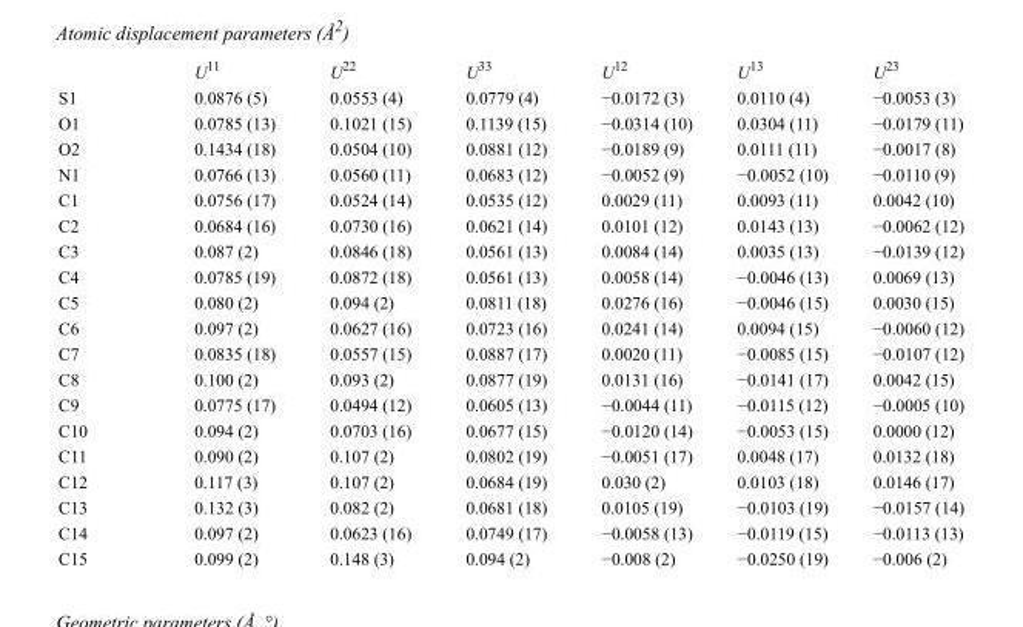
<table><thead><tr><td></td><td>U<sup>11</sup></td><td>U<sup>22</sup></td><td>U<sup>33</sup></td><td>U<sup>12</sup></td><td>U<sup>13</sup></td><td>U<sup>23</sup></td></tr></thead><tbody><tr><td>S1</td><td>0.0876 (5)</td><td>0.0553 (4)</td><td>0.0779 (4)</td><td>−0.0172 (3)</td><td>0.0110 (4)</td><td>−0.0053 (3)</td></tr><tr><td>O1</td><td>0.0785 (13)</td><td>0.1021 (15)</td><td>0.1139 (15)</td><td>−0.0314 (10)</td><td>0.0304 (11)</td><td>−0.0179 (11)</td></tr><tr><td>O2</td><td>0.1434 (18)</td><td>0.0504 (10)</td><td>0.0881 (12)</td><td>−0.0189 (9)</td><td>0.0111 (11)</td><td>−0.0017 (8)</td></tr><tr><td>N1</td><td>0.0766 (13)</td><td>0.0560 (11)</td><td>0.0683 (12)</td><td>−0.0052 (9)</td><td>−0.0052 (10)</td><td>−0.0110 (9)</td></tr><tr><td>C1</td><td>0.0756 (17)</td><td>0.0524 (14)</td><td>0.0535 (12)</td><td>0.0029 (11)</td><td>0.0093 (11)</td><td>0.0042 (10)</td></tr><tr><td>C2</td><td>0.0684 (16)</td><td>0.0730 (16)</td><td>0.0621 (14)</td><td>0.0101 (12)</td><td>0.0143 (13)</td><td>−0.0062 (12)</td></tr><tr><td>C3</td><td>0.087 (2)</td><td>0.0846 (18)</td><td>0.0561 (13)</td><td>0.0084 (14)</td><td>0.0035 (13)</td><td>−0.0139 (12)</td></tr><tr><td>C4</td><td>0.0785 (19)</td><td>0.0872 (18)</td><td>0.0561 (13)</td><td>0.0058 (14)</td><td>−0.0046 (13)</td><td>0.0069 (13)</td></tr><tr><td>C5</td><td>0.080 (2)</td><td>0.094 (2)</td><td>0.0811 (18)</td><td>0.0276 (16)</td><td>−0.0046 (15)</td><td>0.0030 (15)</td></tr><tr><td>C6</td><td>0.097 (2)</td><td>0.0627 (16)</td><td>0.0723 (16)</td><td>0.0241 (14)</td><td>0.0094 (15)</td><td>−0.0060 (12)</td></tr><tr><td>C7</td><td>0.0835 (18)</td><td>0.0557 (15)</td><td>0.0887 (17)</td><td>0.0020 (11)</td><td>−0.0085 (15)</td><td>−0.0107 (12)</td></tr><tr><td>C8</td><td>0.100 (2)</td><td>0.093 (2)</td><td>0.0877 (19)</td><td>0.0131 (16)</td><td>−0.0141 (17)</td><td>0.0042 (15)</td></tr><tr><td>C9</td><td>0.0775 (17)</td><td>0.0494 (12)</td><td>0.0605 (13)</td><td>−0.0044 (11)</td><td>−0.0115 (12)</td><td>−0.0005 (10)</td></tr><tr><td>C10</td><td>0.094 (2)</td><td>0.0703 (16)</td><td>0.0677 (15)</td><td>−0.0120 (14)</td><td>−0.0053 (15)</td><td>0.0000 (12)</td></tr><tr><td>C11</td><td>0.090 (2)</td><td>0.107 (2)</td><td>0.0802 (19)</td><td>−0.0051 (17)</td><td>0.0048 (17)</td><td>0.0132 (18)</td></tr><tr><td>C12</td><td>0.117 (3)</td><td>0.107 (2)</td><td>0.0684 (19)</td><td>0.030 (2)</td><td>0.0103 (18)</td><td>0.0146 (17)</td></tr><tr><td>C13</td><td>0.132 (3)</td><td>0.082 (2)</td><td>0.0681 (18)</td><td>0.0105 (19)</td><td>−0.0103 (19)</td><td>−0.0157 (14)</td></tr><tr><td>C14</td><td>0.097 (2)</td><td>0.0623 (16)</td><td>0.0749 (17)</td><td>−0.0058 (13)</td><td>−0.0119 (15)</td><td>−0.0113 (13)</td></tr><tr><td>C15</td><td>0.099 (2)</td><td>0.148 (3)</td><td>0.094 (2)</td><td>−0.008 (2)</td><td>−0.0250 (19)</td><td>−0.006 (2)</td></tr></tbody></table>